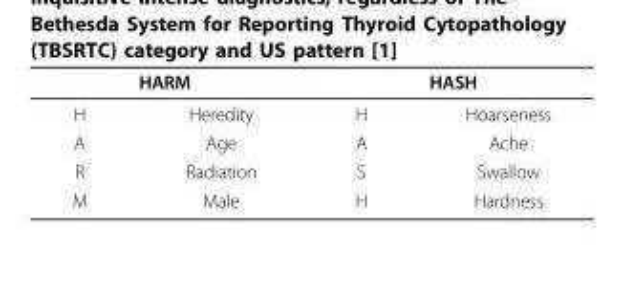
<table><thead><tr><td colspan="2">HARM</td><td colspan="2">HASH</td></tr><tr><td>H</td><td>Heredity</td><td>H</td><td>Hoarseness</td></tr></thead><tbody><tr><td>A</td><td>Age</td><td>A</td><td>Ache</td></tr><tr><td>R</td><td>Radiation</td><td>S</td><td>Swallow</td></tr><tr><td>M</td><td>Male</td><td>H</td><td>Hardness</td></tr></tbody></table>